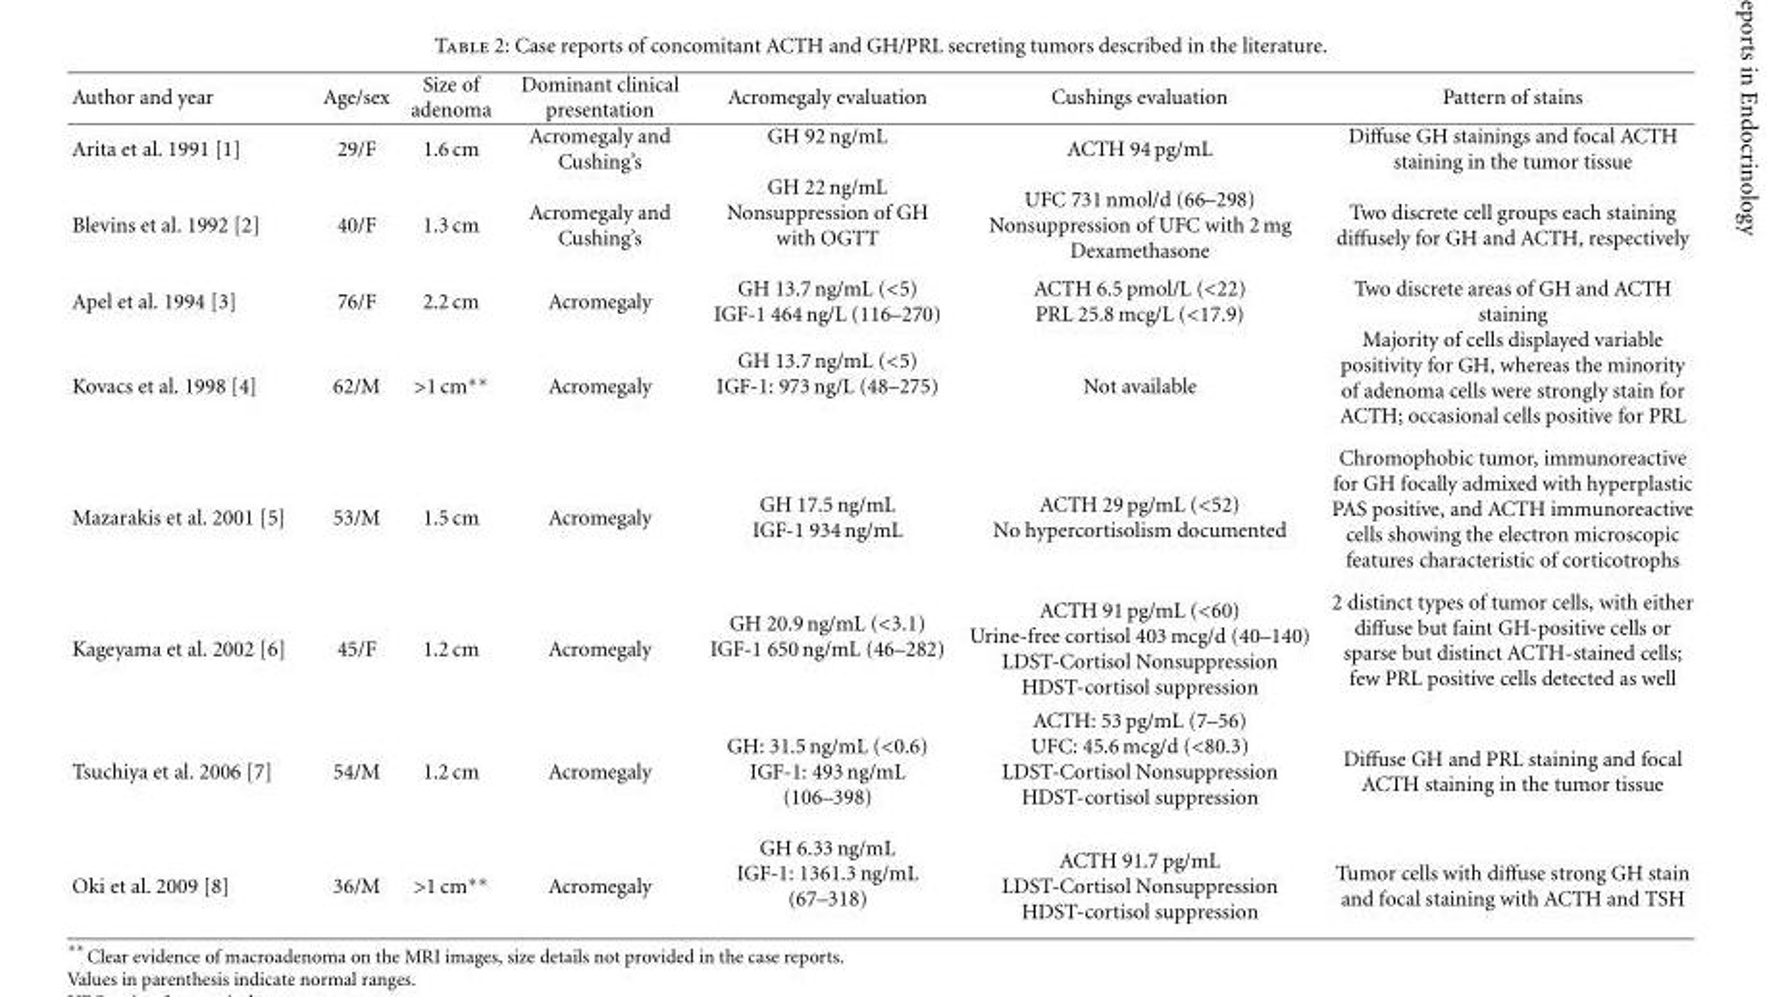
<table><thead><tr><td>Author and year</td><td>Age/sex</td><td>Size of adenoma</td><td>Dominant clinical presentation</td><td>Acromegaly evaluation</td><td>Cushings evaluation</td><td>Pattern of stains</td></tr></thead><tbody><tr><td>Arita et al. 1991 [1]</td><td>29/F</td><td>1.6 cm</td><td>Acromegaly and Cushing’s</td><td>GH 92 ng/mL</td><td>ACTH 94 pg/mL</td><td>Diffuse GH stainings and focal ACTH staining in the tumor tissue</td></tr><tr><td>Blevins et al. 1992 [2]</td><td>40/F</td><td>1.3 cm</td><td>Acromegaly and Cushing’s</td><td>GH 22 ng/mL Nonsuppression of GH with OGTT</td><td>UFC 731 nmol/d (66–298) Nonsuppression of UFC with 2 mg Dexamethasone</td><td>Two discrete cell groups each staining diffusely for GH and ACTH, respectively</td></tr><tr><td>Apel et al. 1994 [3]</td><td>76/F</td><td>2.2 cm</td><td>Acromegaly</td><td>GH 13.7 ng/mL (&lt;5) IGF-1 464 ng/L (116–270)</td><td>ACTH 6.5 pmol/L (&lt;22) PRL 25.8 mcg/L (&lt;17.9)</td><td>Two discrete areas of GH and ACTH staining</td></tr><tr><td>Kovacs et al. 1998 [4]</td><td>62/M</td><td>&gt;1 cm∗∗</td><td>Acromegaly</td><td>GH 13.7 ng/mL (&lt;5) IGF-1: 973 ng/L (48–275)</td><td>Not available</td><td>Majority of cells displayed variable positivity for GH, whereas the minority of adenoma cells were strongly stain for ACTH; occasional cells positive for PRL</td></tr><tr><td>Mazarakis et al. 2001 [5]</td><td>53/M</td><td>1.5 cm</td><td>Acromegaly</td><td>GH 17.5 ng/mL IGF-1 934 ng/mL</td><td>ACTH 29 pg/mL (&lt;52) No hypercortisolism documented</td><td>Chromophobic tumor, immunoreactive for GH focally admixed with hyperplastic PAS positive, and ACTH immunoreactive cells showing the electron microscopic features characteristic of corticotrophs</td></tr><tr><td>Kageyama et al. 2002 [6]</td><td>45/F</td><td>1.2 cm</td><td>Acromegaly</td><td>GH 20.9 ng/mL (&lt;3.1) IGF-1 650 ng/mL (46–282)</td><td>ACTH 91 pg/mL (&lt;60) Urine-free cortisol 403 mcg/d (40–140) LDST-Cortisol Nonsuppression HDST-cortisol suppression</td><td>2 distinct types of tumor cells, with either diffuse but faint GH-positive cells or sparse but distinct ACTH-stained cells; few PRL positive cells detected as well</td></tr><tr><td>Tsuchiya et al. 2006 [7]</td><td>54/M</td><td>1.2 cm</td><td>Acromegaly</td><td>GH: 31.5 ng/mL (&lt;0.6) IGF-1: 493 ng/mL (106–398)</td><td>ACTH: 53 pg/mL (7–56) UFC: 45.6 mcg/d (&lt;80.3) LDST-Cortisol Nonsuppression HDST-cortisol suppression</td><td>Diffuse GH and PRL staining and focal ACTH staining in the tumor tissue</td></tr><tr><td>Oki et al. 2009 [8]</td><td>36/M</td><td>&gt;1 cm∗∗</td><td>Acromegaly</td><td>GH 6.33 ng/mL IGF-1: 1361.3 ng/mL (67–318)</td><td>ACTH 91.7 pg/mL LDST-Cortisol Nonsuppression HDST-cortisol suppression</td><td>Tumor cells with diffuse strong GH stain and focal staining with ACTH and TSH</td></tr></tbody></table>